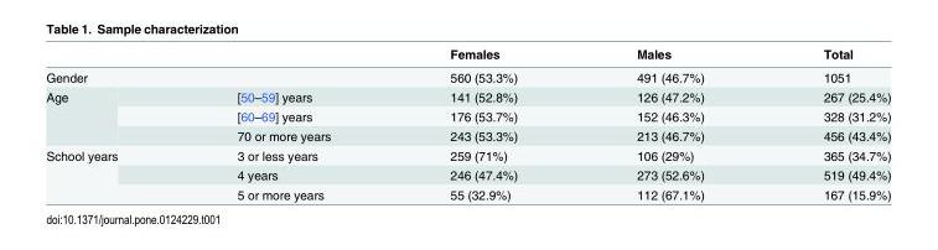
<table><thead><tr><td></td><td></td><td>Females</td><td>Males</td><td>Total</td></tr></thead><tbody><tr><td>Gender</td><td></td><td>560 (53.3%)</td><td>491 (46.7%)</td><td>1051</td></tr><tr><td rowspan="3">Age</td><td>[50–59] years</td><td>141 (52.8%)</td><td>126 (47.2%)</td><td>267 (25.4%)</td></tr><tr><td>[60–69] years</td><td>176 (53.7%)</td><td>152 (46.3%)</td><td>328 (31.2%)</td></tr><tr><td>70 or more years</td><td>243 (53.3%)</td><td>213 (46.7%)</td><td>456 (43.4%)</td></tr><tr><td rowspan="3">School years</td><td>3 or less years</td><td>259 (71%)</td><td>106 (29%)</td><td>365 (34.7%)</td></tr><tr><td>4 years</td><td>246 (47.4%)</td><td>273 (52.6%)</td><td>519 (49.4%)</td></tr><tr><td>5 or more years</td><td>55 (32.9%)</td><td>112 (67.1%)</td><td>167 (15.9%)</td></tr></tbody></table>